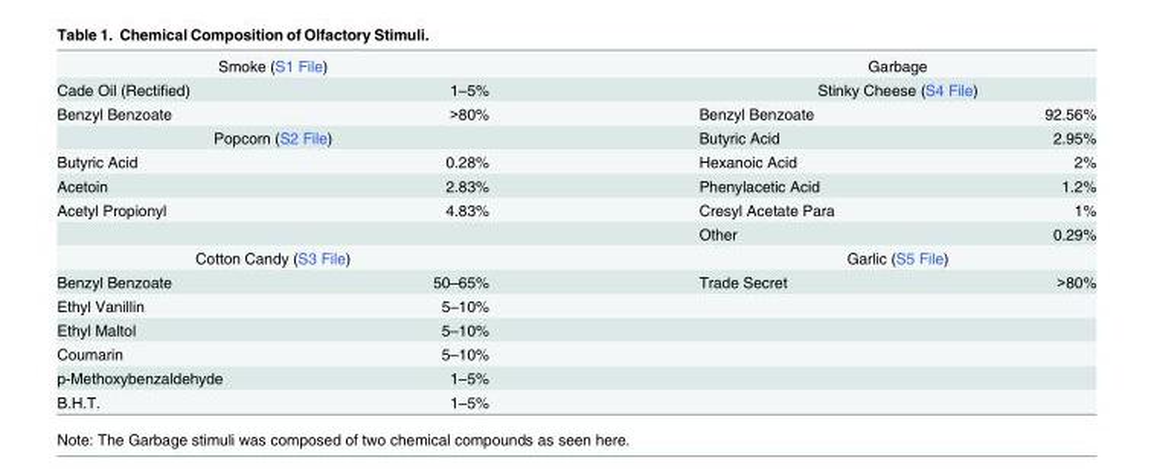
<table><tbody><tr><td colspan="2">Smoke (S1 File)</td><td colspan="2">Garbage</td></tr><tr><td>Cade Oil (Rectified)</td><td>1–5%</td><td colspan="2">Stinky Cheese (S4 File)</td></tr><tr><td>Benzyl Benzoate</td><td>&gt;80%</td><td>Benzyl Benzoate</td><td>92.56%</td></tr><tr><td colspan="2">Popcorn (S2 File)</td><td>Butyric Acid</td><td>2.95%</td></tr><tr><td>Butyric Acid</td><td>0.28%</td><td>Hexanoic Acid</td><td>2%</td></tr><tr><td>Acetoin</td><td>2.83%</td><td>Phenylacetic Acid</td><td>1.2%</td></tr><tr><td rowspan="2">Acetyl Propionyl</td><td>4.83%</td><td>Cresyl Acetate Para</td><td>1%</td></tr><tr><td></td><td>Other</td><td>0.29%</td></tr><tr><td colspan="2">Cotton Candy (S3 File)</td><td colspan="2">Garlic (S5 File)</td></tr><tr><td>Benzyl Benzoate</td><td>50–65%</td><td>Trade Secret</td><td>&gt;80%</td></tr><tr><td>Ethyl Vanillin</td><td>5–10%</td><td></td><td></td></tr><tr><td>Ethyl Maltol</td><td>5–10%</td><td></td><td></td></tr><tr><td>Coumarin</td><td>5–10%</td><td></td><td></td></tr><tr><td>p-Methoxybenzaldehyde</td><td>1–5%</td><td></td><td></td></tr><tr><td>B.H.T.</td><td>1–5%</td><td></td><td></td></tr></tbody></table>